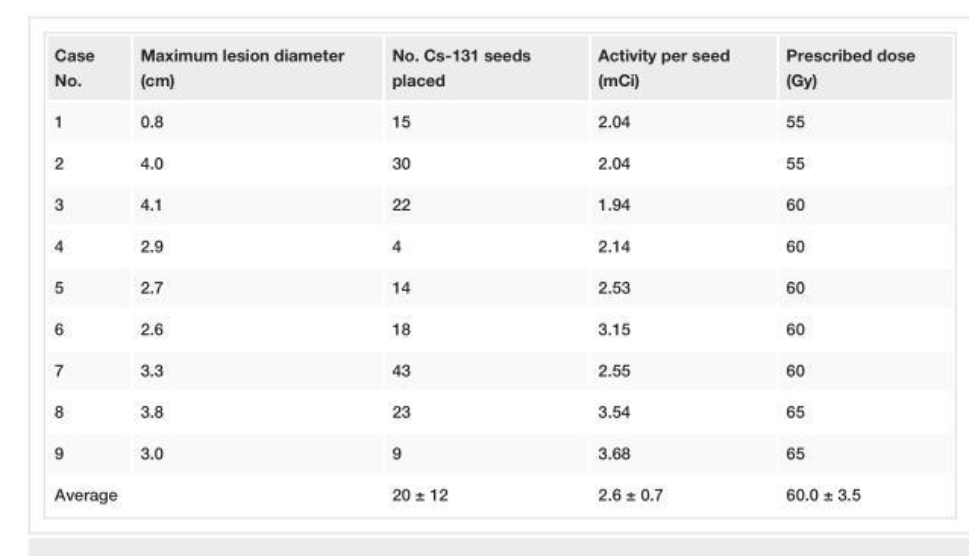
<table><tbody><tr><td>Case No.</td><td>Maximum lesion diameter (cm)</td><td>No. Cs-131 seeds placed</td><td>Activity per seed (mCi)</td><td>Prescribed dose (Gy)</td></tr><tr><td>1</td><td>0.8</td><td>15</td><td>2.04</td><td>55</td></tr><tr><td>2</td><td>4.0</td><td>30</td><td>2.04</td><td>55</td></tr><tr><td>3</td><td>4.1</td><td>22</td><td>1.94</td><td>60</td></tr><tr><td>4</td><td>2.9</td><td>4</td><td>2.14</td><td>60</td></tr><tr><td>5</td><td>2.7</td><td>14</td><td>2.53</td><td>60</td></tr><tr><td>6</td><td>2.6</td><td>18</td><td>3.15</td><td>60</td></tr><tr><td>7</td><td>3.3</td><td>43</td><td>2.55</td><td>60</td></tr><tr><td>8</td><td>3.8</td><td>23</td><td>3.54</td><td>65</td></tr><tr><td>9</td><td>3.0</td><td>9</td><td>3.68</td><td>65</td></tr><tr><td>Average</td><td></td><td>20 ± 12</td><td>2.6 ± 0.7</td><td>60.0 ± 3.5</td></tr></tbody></table>